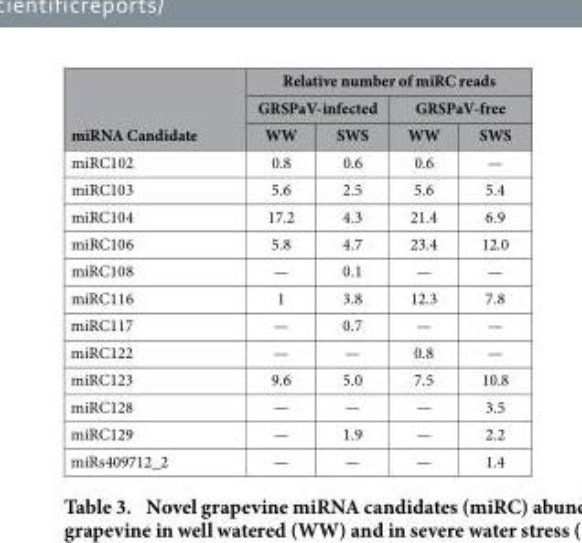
<table><thead><tr><td rowspan="3">miRNA Candidate</td><td colspan="4">Relative number of miRC reads</td></tr><tr><td colspan="2">GRSPaV-infected</td><td colspan="2">GRSPaV-free</td></tr><tr><td>WW</td><td>SWS</td><td>WW</td><td>SWS</td></tr></thead><tbody><tr><td>miRC102</td><td>0.8</td><td>0.6</td><td>0.6</td><td>—</td></tr><tr><td>miRC103</td><td>5.6</td><td>2.5</td><td>5.6</td><td>5.4</td></tr><tr><td>miRC104</td><td>17.2</td><td>4.3</td><td>21.4</td><td>6.9</td></tr><tr><td>miRC106</td><td>5.8</td><td>4.7</td><td>23.4</td><td>12.0</td></tr><tr><td>miRC108</td><td>—</td><td>0.1</td><td>—</td><td>—</td></tr><tr><td>miRC116</td><td>1</td><td>3.8</td><td>12.3</td><td>7.8</td></tr><tr><td>miRC117</td><td>—</td><td>0.7</td><td>—</td><td>—</td></tr><tr><td>miRC122</td><td>—</td><td>—</td><td>0.8</td><td>—</td></tr><tr><td>miRC123</td><td>9.6</td><td>5.0</td><td>7.5</td><td>10.8</td></tr><tr><td>miRC128</td><td>—</td><td>—</td><td>—</td><td>3.5</td></tr><tr><td>miRC129</td><td>—</td><td>1.9</td><td>—</td><td>2.2</td></tr><tr><td>miRs409712_2</td><td>—</td><td>—</td><td>—</td><td>1.4</td></tr></tbody></table>